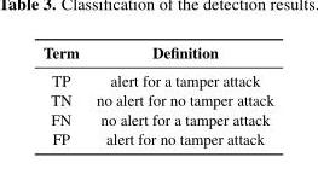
<table><thead><tr><td>Term</td><td>Definition</td></tr></thead><tbody><tr><td>TP</td><td>alert for a tamper attack</td></tr><tr><td>TN</td><td>no alert for no tamper attack</td></tr><tr><td>FN</td><td>no alert for a tamper attack</td></tr><tr><td>FP</td><td>alert for no tamper attack</td></tr></tbody></table>